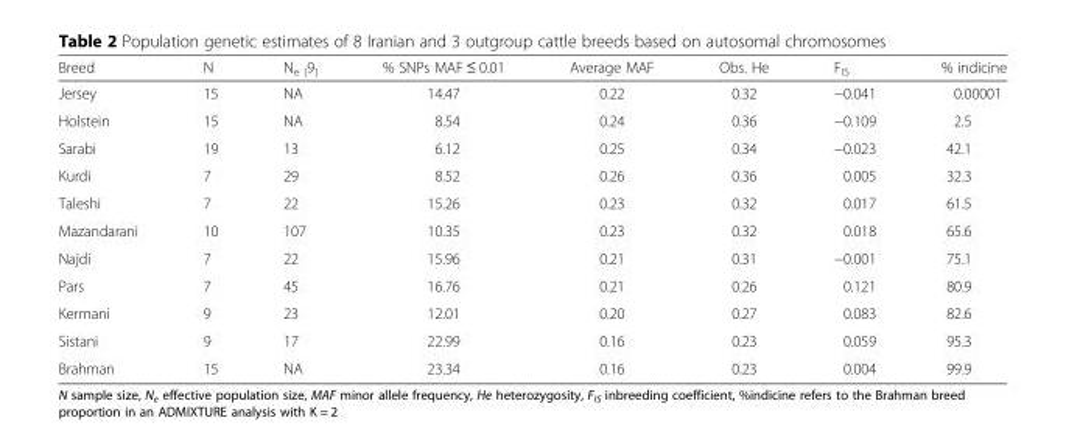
<table><thead><tr><td>Breed</td><td>N</td><td>N<sub>e [</sub>9<sub>]</sub></td><td>% SNPs MAF ≤ 0.01</td><td>Average MAF</td><td>Obs. He</td><td>F<sub>IS</sub></td><td>% indicine</td></tr></thead><tbody><tr><td>Jersey</td><td>15</td><td>NA</td><td>14.47</td><td>0.22</td><td>0.32</td><td>−0.041</td><td>0.00001</td></tr><tr><td>Holstein</td><td>15</td><td>NA</td><td>8.54</td><td>0.24</td><td>0.36</td><td>−0.109</td><td>2.5</td></tr><tr><td>Sarabi</td><td>19</td><td>13</td><td>6.12</td><td>0.25</td><td>0.34</td><td>−0.023</td><td>42.1</td></tr><tr><td>Kurdi</td><td>7</td><td>29</td><td>8.52</td><td>0.26</td><td>0.36</td><td>0.005</td><td>32.3</td></tr><tr><td>Taleshi</td><td>7</td><td>22</td><td>15.26</td><td>0.23</td><td>0.32</td><td>0.017</td><td>61.5</td></tr><tr><td>Mazandarani</td><td>10</td><td>107</td><td>10.35</td><td>0.23</td><td>0.32</td><td>0.018</td><td>65.6</td></tr><tr><td>Najdi</td><td>7</td><td>22</td><td>15.96</td><td>0.21</td><td>0.31</td><td>−0.001</td><td>75.1</td></tr><tr><td>Pars</td><td>7</td><td>45</td><td>16.76</td><td>0.21</td><td>0.26</td><td>0.121</td><td>80.9</td></tr><tr><td>Kermani</td><td>9</td><td>23</td><td>12.01</td><td>0.20</td><td>0.27</td><td>0.083</td><td>82.6</td></tr><tr><td>Sistani</td><td>9</td><td>17</td><td>22.99</td><td>0.16</td><td>0.23</td><td>0.059</td><td>95.3</td></tr><tr><td>Brahman</td><td>15</td><td>NA</td><td>23.34</td><td>0.16</td><td>0.23</td><td>0.004</td><td>99.9</td></tr></tbody></table>